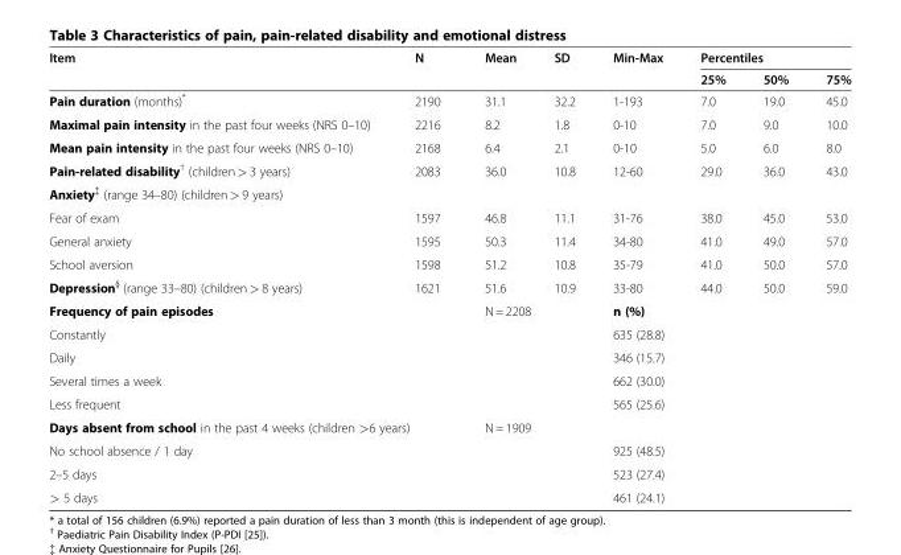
<table><thead><tr><td rowspan="2">Item</td><td rowspan="2">N</td><td rowspan="2">Mean</td><td rowspan="2">SD</td><td rowspan="2">Min-Max</td><td colspan="3">Percentiles</td></tr><tr><td>25%</td><td>50%</td><td>75%</td></tr></thead><tbody><tr><td>Pain duration (months)*</td><td>2190</td><td>31.1</td><td>32.2</td><td>1-193</td><td>7.0</td><td>19.0</td><td>45.0</td></tr><tr><td>Maximal pain intensity in the past four weeks (NRS 0–10)</td><td>2216</td><td>8.2</td><td>1.8</td><td>0-10</td><td>7.0</td><td>9.0</td><td>10.0</td></tr><tr><td>Mean pain intensity in the past four weeks (NRS 0–10)</td><td>2168</td><td>6.4</td><td>2.1</td><td>0-10</td><td>5.0</td><td>6.0</td><td>8.0</td></tr><tr><td>Pain-related disability<sup>†</sup> (children &gt; 3 years)</td><td>2083</td><td>36.0</td><td>10.8</td><td>12-60</td><td>29.0</td><td>36.0</td><td>43.0</td></tr><tr><td colspan="8">Anxiety<sup>‡</sup> (range 34–80) (children &gt; 9 years)</td></tr><tr><td>Fear of exam</td><td>1597</td><td>46.8</td><td>11.1</td><td>31-76</td><td>38.0</td><td>45.0</td><td>53.0</td></tr><tr><td>General anxiety</td><td>1595</td><td>50.3</td><td>11.4</td><td>34-80</td><td>41.0</td><td>49.0</td><td>57.0</td></tr><tr><td>School aversion</td><td>1598</td><td>51.2</td><td>10.8</td><td>35-79</td><td>41.0</td><td>50.0</td><td>57.0</td></tr><tr><td>Depression<sup>§</sup> (range 33–80) (children &gt; 8 years)</td><td>1621</td><td>51.6</td><td>10.9</td><td>33-80</td><td>44.0</td><td>50.0</td><td>59.0</td></tr><tr><td colspan="2">Frequency of pain episodes</td><td colspan="2">N = 2208</td><td colspan="4">n (%)</td></tr><tr><td colspan="2">Constantly</td><td colspan="2"></td><td colspan="4">635 (28.8)</td></tr><tr><td colspan="2">Daily</td><td colspan="2"></td><td colspan="4">346 (15.7)</td></tr><tr><td colspan="2">Several times a week</td><td colspan="2"></td><td colspan="4">662 (30.0)</td></tr><tr><td colspan="2">Less frequent</td><td colspan="2"></td><td colspan="4">565 (25.6)</td></tr><tr><td colspan="2">Days absent from school in the past 4 weeks (children &gt;6 years)</td><td colspan="2">N = 1909</td><td colspan="4"></td></tr><tr><td colspan="2">No school absence / 1 day</td><td colspan="2"></td><td colspan="4">925 (48.5)</td></tr><tr><td colspan="2">2–5 days</td><td colspan="2"></td><td colspan="4">523 (27.4)</td></tr><tr><td colspan="2">&gt; 5 days</td><td colspan="2"></td><td colspan="4">461 (24.1)</td></tr></tbody></table>